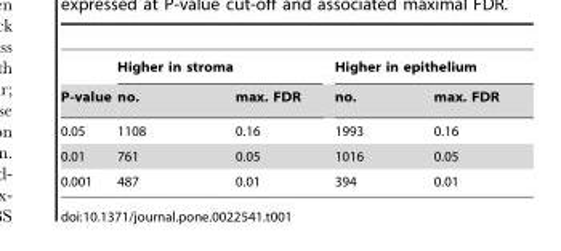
<table><thead><tr><td rowspan="2">P-value</td><td colspan="2">Higher in stroma</td><td colspan="2">Higher in epithelium</td></tr><tr><td>no.</td><td>max. FDR</td><td>no.</td><td>max. FDR</td></tr></thead><tbody><tr><td>0.05</td><td>1108</td><td>0.16</td><td>1993</td><td>0.16</td></tr><tr><td>0.01</td><td>761</td><td>0.05</td><td>1016</td><td>0.05</td></tr><tr><td>0.001</td><td>487</td><td>0.01</td><td>394</td><td>0.01</td></tr></tbody></table>